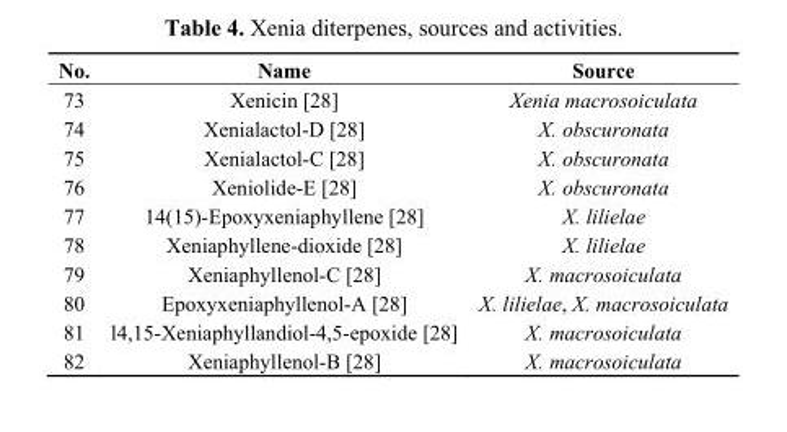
<table><thead><tr><td>No.</td><td>Name</td><td>Source</td></tr></thead><tbody><tr><td>73</td><td>Xenicin [28]</td><td>Xenia macrosoiculata</td></tr><tr><td>74</td><td>Xenialactol-D [28]</td><td>X. obscuronata</td></tr><tr><td>75</td><td>Xenialactol-C [28]</td><td>X. obscuronata</td></tr><tr><td>76</td><td>Xeniolide-E [28]</td><td>X. obscuronata</td></tr><tr><td>77</td><td>14(15)-Epoxyxeniaphyllene [28]</td><td>X. lilielae</td></tr><tr><td>78</td><td>Xeniaphyllene-dioxide [28]</td><td>X. lilielae</td></tr><tr><td>79</td><td>Xeniaphyllenol-C [28]</td><td>X. macrosoiculata</td></tr><tr><td>80</td><td>Epoxyxeniaphyllenol-A [28]</td><td>X. lilielae, X. macrosoiculata</td></tr><tr><td>81</td><td>l4,15-Xeniaphyllandiol-4,5-epoxide [28]</td><td>X. macrosoiculata</td></tr><tr><td>82</td><td>Xeniaphyllenol-B [28]</td><td>X. macrosoiculata</td></tr></tbody></table>